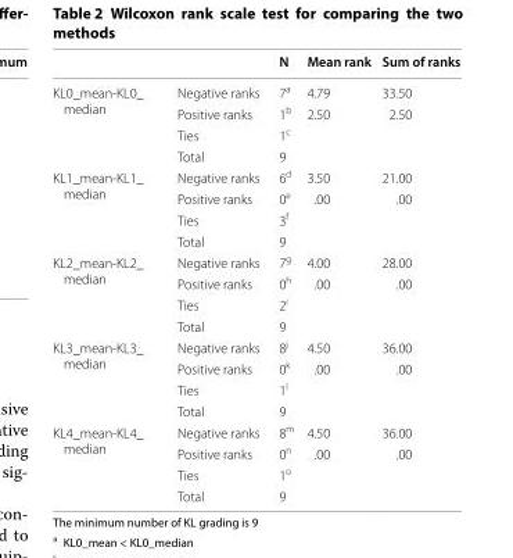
<table><thead><tr><td></td><td></td><td>N</td><td>Mean rank</td><td>Sum of ranks</td></tr></thead><tbody><tr><td rowspan="4">KL0_mean‑KL0_ median</td><td>Negative ranks</td><td>7<sup>a</sup></td><td>4.79</td><td>33.50</td></tr><tr><td>Positive ranks</td><td>1<sup>b</sup></td><td>2.50</td><td>2.50</td></tr><tr><td>Ties</td><td>1<sup>c</sup></td><td></td><td></td></tr><tr><td>Total</td><td>9</td><td></td><td></td></tr><tr><td rowspan="4">KL1_mean‑KL1_ median</td><td>Negative ranks</td><td>6<sup>d</sup></td><td>3.50</td><td>21.00</td></tr><tr><td>Positive ranks</td><td>0<sup>e</sup></td><td>.00</td><td>.00</td></tr><tr><td>Ties</td><td>3<sup>f</sup></td><td></td><td></td></tr><tr><td>Total</td><td>9</td><td></td><td></td></tr><tr><td rowspan="4">KL2_mean‑KL2_ median</td><td>Negative ranks</td><td>7<sup>g</sup></td><td>4.00</td><td>28.00</td></tr><tr><td>Positive ranks</td><td>0<sup>h</sup></td><td>.00</td><td>.00</td></tr><tr><td>Ties</td><td>2<sup>i</sup></td><td></td><td></td></tr><tr><td>Total</td><td>9</td><td></td><td></td></tr><tr><td rowspan="4">KL3_mean‑KL3_ median</td><td>Negative ranks</td><td>8<sup>j</sup></td><td>4.50</td><td>36.00</td></tr><tr><td>Positive ranks</td><td>0<sup>k</sup></td><td>.00</td><td>.00</td></tr><tr><td>Ties</td><td>1<sup>l</sup></td><td></td><td></td></tr><tr><td>Total</td><td>9</td><td></td><td></td></tr><tr><td rowspan="4">KL4_mean‑KL4_ median</td><td>Negative ranks</td><td>8<sup>m</sup></td><td>4.50</td><td>36.00</td></tr><tr><td>Positive ranks</td><td>0<sup>n</sup></td><td>.00</td><td>.00</td></tr><tr><td>Ties</td><td>1<sup>o</sup></td><td></td><td></td></tr><tr><td>Total</td><td>9</td><td></td><td></td></tr></tbody></table>